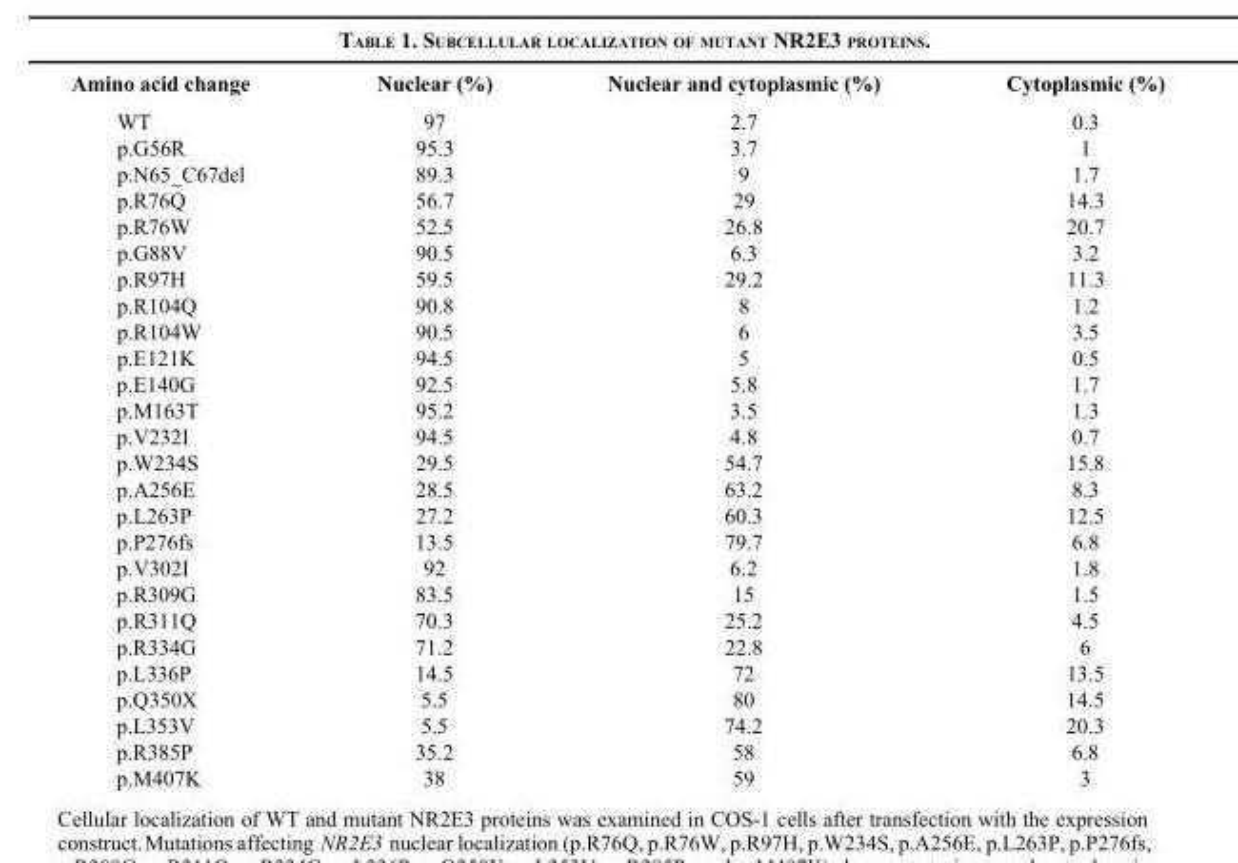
<table><thead><tr><td>Amino acid change</td><td>Nuclear (%)</td><td>Nuclear and cytoplasmic (%)</td><td>Cytoplasmic (%)</td></tr></thead><tbody><tr><td>WT</td><td>97</td><td>2.7</td><td>0.3</td></tr><tr><td>p.G56R</td><td>95.3</td><td>3.7</td><td>1</td></tr><tr><td>p.N65_C67del</td><td>89.3</td><td>9</td><td>1.7</td></tr><tr><td>p.R76Q</td><td>56.7</td><td>29</td><td>14.3</td></tr><tr><td>p.R76W</td><td>52.5</td><td>26.8</td><td>20.7</td></tr><tr><td>p.G88V</td><td>90.5</td><td>6.3</td><td>3.2</td></tr><tr><td>p.R97H</td><td>59.5</td><td>29.2</td><td>11.3</td></tr><tr><td>p.R104Q</td><td>90.8</td><td>8</td><td>1.2</td></tr><tr><td>p.R104W</td><td>90.5</td><td>6</td><td>3.5</td></tr><tr><td>p.E121K</td><td>94.5</td><td>5</td><td>0.5</td></tr><tr><td>p.E140G</td><td>92.5</td><td>5.8</td><td>1.7</td></tr><tr><td>p.M163T</td><td>95.2</td><td>3.5</td><td>1.3</td></tr><tr><td>p.V232I</td><td>94.5</td><td>4.8</td><td>0.7</td></tr><tr><td>p.W234S</td><td>29.5</td><td>54.7</td><td>15.8</td></tr><tr><td>p.A256E</td><td>28.5</td><td>63.2</td><td>8.3</td></tr><tr><td>p.L263P</td><td>27.2</td><td>60.3</td><td>12.5</td></tr><tr><td>p.P276fs</td><td>13.5</td><td>79.7</td><td>6.8</td></tr><tr><td>p.V302I</td><td>92</td><td>6.2</td><td>1.8</td></tr><tr><td>p.R309G</td><td>83.5</td><td>15</td><td>1.5</td></tr><tr><td>p.R311Q</td><td>70.3</td><td>25.2</td><td>4.5</td></tr><tr><td>p.R334G</td><td>71.2</td><td>22.8</td><td>6</td></tr><tr><td>p.L336P</td><td>14.5</td><td>72</td><td>13.5</td></tr><tr><td>p.Q350X</td><td>5.5</td><td>80</td><td>14.5</td></tr><tr><td>p.L353V</td><td>5.5</td><td>74.2</td><td>20.3</td></tr><tr><td>p.R385P</td><td>35.2</td><td>58</td><td>6.8</td></tr><tr><td>p.M407K</td><td>38</td><td>59</td><td>3</td></tr></tbody></table>